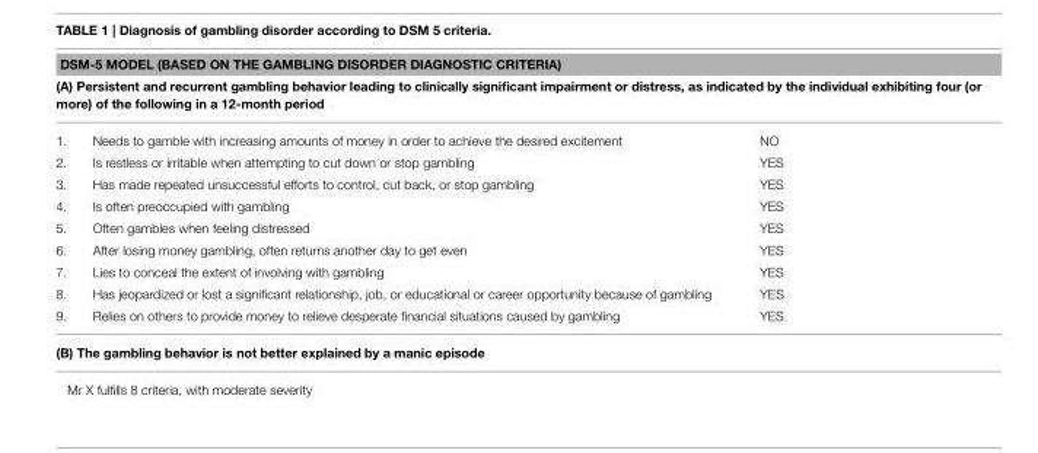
<table><thead><tr><td rowspan="2" colspan="3">DSM-5 MODEL (BASED ON THE GAMBLING DISORDER DIAGNOSTIC CRITERIA) (A) Persistent and recurrent gambling behavior leading to clinically significant impairment or distress, as indicated by the individual exhibiting four (or more) of the following in a 12-month period</td></tr><tr></tr><tr><td>1.</td><td>Needs to gamble with increasing amounts of money in order to achieve the desired excitement</td><td>NO</td></tr></thead><tbody><tr><td>2.</td><td>Is restless or irritable when attempting to cut down or stop gambling</td><td>YES</td></tr><tr><td>3.</td><td>Has made repeated unsuccessful efforts to control, cut back, or stop gambling</td><td>YES</td></tr><tr><td>4.</td><td>Is often preoccupied with gambling</td><td>YES</td></tr><tr><td>5.</td><td>Often gambles when feeling distressed</td><td>YES</td></tr><tr><td>6.</td><td>After losing money gambling, often returns another day to get even</td><td>YES</td></tr><tr><td>7.</td><td>Lies to conceal the extent of involving with gambling</td><td>YES</td></tr><tr><td>8.</td><td>Has jeopardized or lost a significant relationship, job, or educational or career opportunity because of gambling</td><td>YES</td></tr><tr><td>9.</td><td>Relies on others to provide money to relieve desperate financial situations caused by gambling</td><td>YES</td></tr><tr><td colspan="3">(B) The gambling behavior is not better explained by a manic episode</td></tr><tr><td colspan="3">Mr X fulfills 8 criteria, with moderate severity</td></tr></tbody></table>